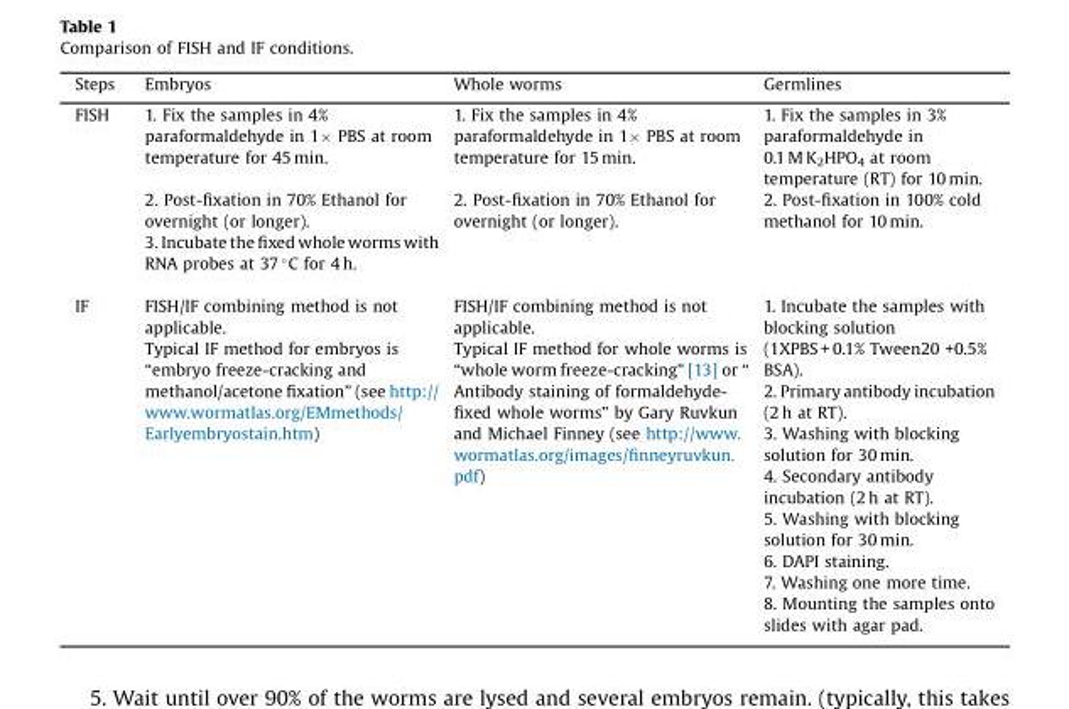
<table><thead><tr><td>Steps</td><td>Embryos</td><td>Whole worms</td><td>Germlines</td></tr></thead><tbody><tr><td rowspan="3">FISH</td><td>1. Fix the samples in 4% paraformaldehyde in 1× PBS at room temperature for 45 min.</td><td>1. Fix the samples in 4% paraformaldehyde in 1× PBS at room temperature for 15 min.</td><td>1. Fix the samples in 3% paraformaldehyde in 0.1 M K<sub>2</sub>HPO<sub>4</sub> at room temperature (RT) for 10 min.</td></tr><tr><td>2. Post-fixation in 70% Ethanol for overnight (or longer).</td><td>2. Post-fixation in 70% Ethanol for overnight (or longer).</td><td>2. Post-fixation in 100% cold methanol for 10 min.</td></tr><tr><td>3. Incubate the fixed whole worms with RNA probes at 37 °C for 4 h.</td><td></td><td></td></tr><tr><td rowspan="8">IF</td><td rowspan="8">FISH/IF combining method is not applicable. Typical IF method for embryos is “embryo freeze-cracking and methanol/acetone fixation” (see http:// www.wormatlas.org/EMmethods/ Earlyembryostain.htm)</td><td rowspan="8">FISH/IF combining method is not applicable. Typical IF method for whole worms is “whole worm freeze-cracking” [13] or “ Antibody staining of formaldehyde- fixed whole worms” by Gary Ruvkun and Michael Finney (see http://www. wormatlas.org/images/finneyruvkun. pdf)</td><td>1. Incubate the samples with blocking solution (1XPBS + 0.1% Tween20 +0.5% BSA).</td></tr><tr><td>2. Primary antibody incubation (2 h at RT).</td></tr><tr><td>3. Washing with blocking solution for 30 min.</td></tr><tr><td>4. Secondary antibody incubation (2 h at RT).</td></tr><tr><td>5. Washing with blocking solution for 30 min.</td></tr><tr><td>6. DAPI staining.</td></tr><tr><td>7. Washing one more time.</td></tr><tr><td>8. Mounting the samples onto slides with agar pad.</td></tr></tbody></table>